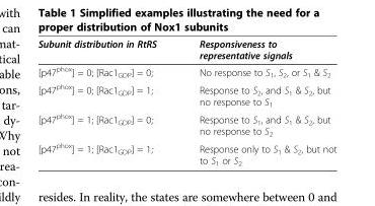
<table><thead><tr><td>Subunit distribution in RtRS</td><td>Responsiveness to representative signals</td></tr></thead><tbody><tr><td>[p47<sup>phox</sup>] = 0; [Rac1<sub>GDP</sub>] = 0;</td><td>No response to S<sub>1</sub>, S<sub>2</sub>, or S<sub>1</sub> &amp; S<sub>2</sub></td></tr><tr><td>[p47<sup>phox</sup>] = 0; [Rac1<sub>GDP</sub>] = 1;</td><td>Response to S<sub>2</sub>, and S<sub>1</sub> &amp; S<sub>2</sub>, but no response to S<sub>1</sub></td></tr><tr><td>[p47<sup>phox</sup>] = 1; [Rac1<sub>GDP</sub>] = 0;</td><td>Response to S<sub>1</sub>, and S<sub>1</sub> &amp; S<sub>2</sub>, but no response to S<sub>2</sub></td></tr><tr><td>[p47<sup>phox</sup>] = 1; [Rac1<sub>GDP</sub>] = 1;</td><td>Response only to S<sub>1</sub> &amp; S<sub>2</sub>, but not to S<sub>1</sub> or S<sub>2</sub></td></tr></tbody></table>